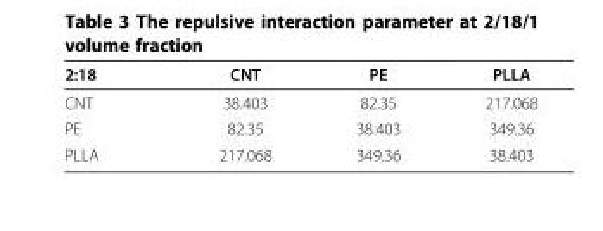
<table><thead><tr><td>2:18</td><td>CNT</td><td>PE</td><td>PLLA</td></tr></thead><tbody><tr><td>CNT</td><td>38.403</td><td>82.35</td><td>217.068</td></tr><tr><td>PE</td><td>82.35</td><td>38.403</td><td>349.36</td></tr><tr><td>PLLA</td><td>217.068</td><td>349.36</td><td>38.403</td></tr></tbody></table>